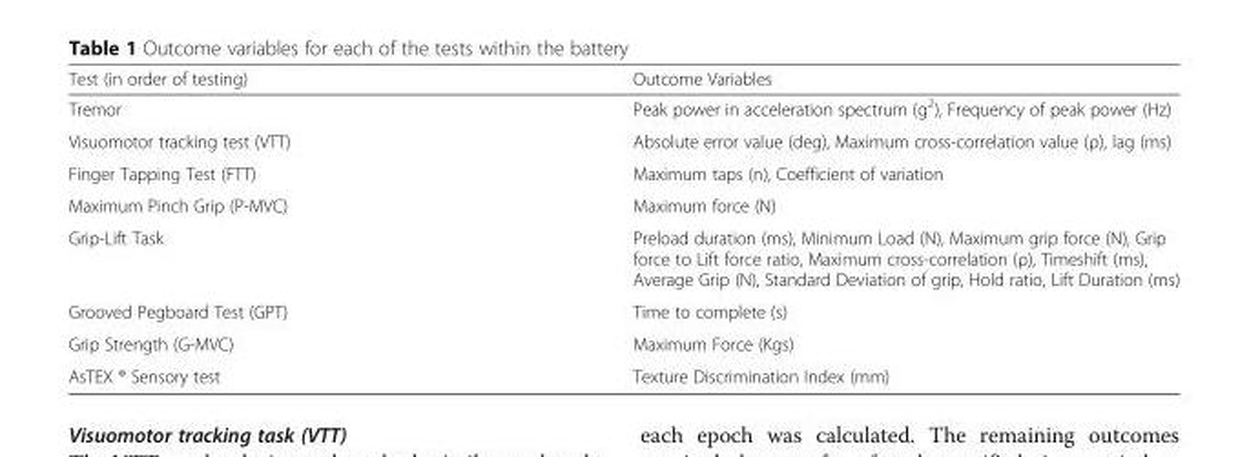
<table><thead><tr><td>Test (in order of testing)</td><td>Outcome Variables</td></tr></thead><tbody><tr><td>Tremor</td><td>Peak power in acceleration spectrum (g<sup>2</sup>), Frequency of peak power (Hz)</td></tr><tr><td>Visuomotor tracking test (VTT)</td><td>Absolute error value (deg), Maximum cross-correlation value (ρ), lag (ms)</td></tr><tr><td>Finger Tapping Test (FTT)</td><td>Maximum taps (n), Coefficient of variation</td></tr><tr><td>Maximum Pinch Grip (P-MVC)</td><td>Maximum force (N)</td></tr><tr><td>Grip-Lift Task</td><td>Preload duration (ms), Minimum Load (N), Maximum grip force (N), Grip force to Lift force ratio, Maximum cross-correlation (ρ), Timeshift (ms), Average Grip (N), Standard Deviation of grip, Hold ratio, Lift Duration (ms)</td></tr><tr><td>Grooved Pegboard Test (GPT)</td><td>Time to complete (s)</td></tr><tr><td>Grip Strength (G-MVC)</td><td>Maximum Force (Kgs)</td></tr><tr><td>AsTEX ® Sensory test</td><td>Texture Discrimination Index (mm)</td></tr></tbody></table>